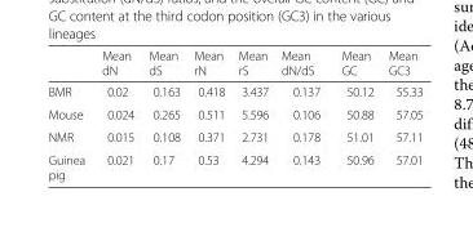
<table><thead><tr><td></td><td>Mean dN</td><td>Mean dS</td><td>Mean rN</td><td>Mean rS</td><td>Mean dN/dS</td><td>Mean GC</td><td>Mean GC3</td></tr></thead><tbody><tr><td>BMR</td><td>0.02</td><td>0.163</td><td>0.418</td><td>3.437</td><td>0.137</td><td>50.12</td><td>55.33</td></tr><tr><td>Mouse</td><td>0.024</td><td>0.265</td><td>0.511</td><td>5.596</td><td>0.106</td><td>50.88</td><td>57.05</td></tr><tr><td>NMR</td><td>0.015</td><td>0.108</td><td>0.371</td><td>2.731</td><td>0.178</td><td>51.01</td><td>57.11</td></tr><tr><td>Guinea pig</td><td>0.021</td><td>0.17</td><td>0.53</td><td>4.294</td><td>0.143</td><td>50.96</td><td>57.01</td></tr></tbody></table>